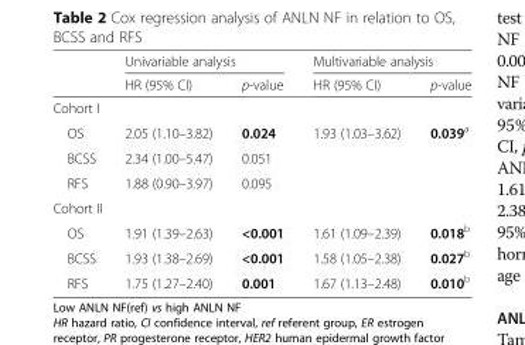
<table><thead><tr><td rowspan="2"></td><td colspan="2">Univariable analysis</td><td colspan="2">Multivariable analysis</td></tr><tr><td>HR (95% CI)</td><td>p-value</td><td>HR (95% CI)</td><td>p-value</td></tr></thead><tbody><tr><td colspan="5">Cohort I</td></tr><tr><td>OS</td><td>2.05 (1.10–3.82)</td><td>0.024</td><td>1.93 (1.03–3.62)</td><td>0.039<sup>a</sup></td></tr><tr><td>BCSS</td><td>2.34 (1.00–5.47)</td><td>0.051</td><td></td><td></td></tr><tr><td>RFS</td><td>1.88 (0.90–3.97)</td><td>0.095</td><td></td><td></td></tr><tr><td colspan="5">Cohort II</td></tr><tr><td>OS</td><td>1.91 (1.39–2.63)</td><td>&lt;0.001</td><td>1.61 (1.09–2.39)</td><td>0.018<sup>b</sup></td></tr><tr><td>BCSS</td><td>1.93 (1.38–2.69)</td><td>&lt;0.001</td><td>1.58 (1.05–2.38)</td><td>0.027<sup>b</sup></td></tr><tr><td>RFS</td><td>1.75 (1.27–2.40)</td><td>0.001</td><td>1.67 (1.13–2.48)</td><td>0.010<sup>b</sup></td></tr></tbody></table>